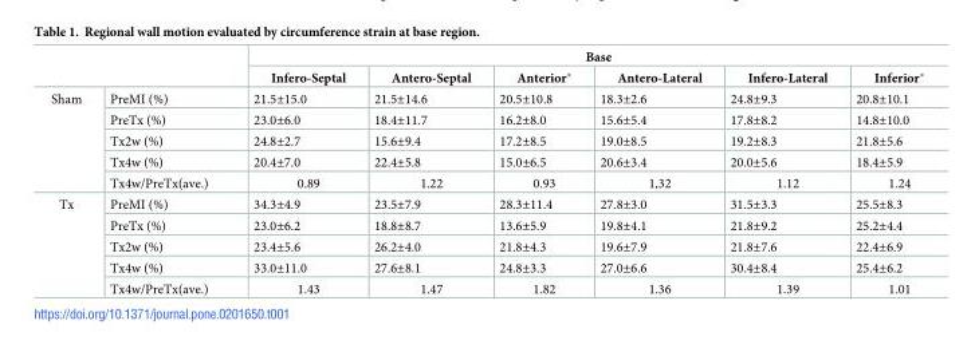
<table><thead><tr><td rowspan="2"></td><td rowspan="2"></td><td colspan="6">Base</td></tr><tr><td>Infero-Septal</td><td>Antero-Septal</td><td>Anterior*</td><td>Antero-Lateral</td><td>Infero-Lateral</td><td>Inferior*</td></tr></thead><tbody><tr><td rowspan="5">Sham</td><td>PreMI (%)</td><td>21.5±15.0</td><td>21.5±14.6</td><td>20.5±10.8</td><td>18.3±2.6</td><td>24.8±9.3</td><td>20.8±10.1</td></tr><tr><td>PreTx (%)</td><td>23.0±6.0</td><td>18.4±11.7</td><td>16.2±8.0</td><td>15.6±5.4</td><td>17.8±8.2</td><td>14.8±10.0</td></tr><tr><td>Tx2w (%)</td><td>24.8±2.7</td><td>15.6±9.4</td><td>17.2±8.5</td><td>19.0±8.5</td><td>19.2±8.3</td><td>21.8±5.6</td></tr><tr><td>Tx4w (%)</td><td>20.4±7.0</td><td>22.4±5.8</td><td>15.0±6.5</td><td>20.6±3.4</td><td>20.0±5.6</td><td>18.4±5.9</td></tr><tr><td>Tx4w/PreTx(ave.)</td><td>0.89</td><td>1.22</td><td>0.93</td><td>1,32</td><td>1.12</td><td>1.24</td></tr><tr><td rowspan="5">Tx</td><td>PreMI (%)</td><td>34.3±4.9</td><td>23.5±7.9</td><td>28.3±11.4</td><td>27.8±3.0</td><td>31.5±3.3</td><td>25.5±8.3</td></tr><tr><td>PreTx (%)</td><td>23.0±6.2</td><td>18.8±8.7</td><td>13.6±5.9</td><td>19.8±4.1</td><td>21.8±9.2</td><td>25.2±4.4</td></tr><tr><td>Tx2w (%)</td><td>23.4±5.6</td><td>26.2±4.0</td><td>21.8±4.3</td><td>19.6±7.9</td><td>21.8±7.6</td><td>22.4±6.9</td></tr><tr><td>Tx4w (%)</td><td>33.0±11.0</td><td>27.6±8.1</td><td>24.8±3.3</td><td>27.0±6.6</td><td>30.4±8.4</td><td>25.4±6.2</td></tr><tr><td>Tx4w/PreTx(ave.)</td><td>1.43</td><td>1.47</td><td>1.82</td><td>1.36</td><td>1.39</td><td>1.01</td></tr></tbody></table>